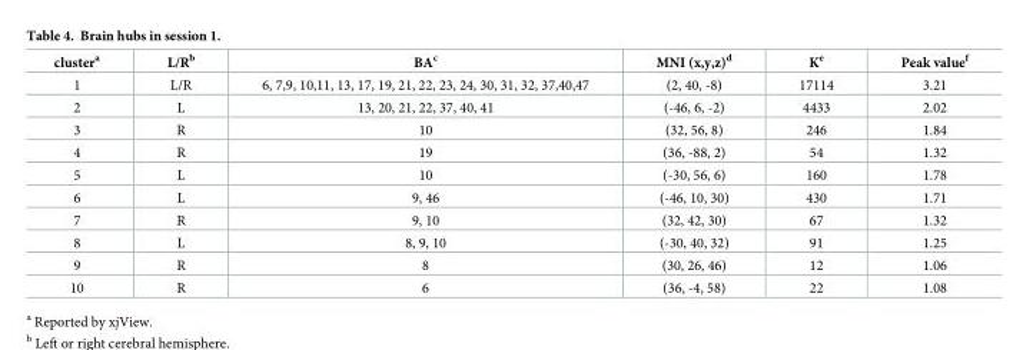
<table><thead><tr><td>cluster<sup>a</sup></td><td>L/R<sup>b</sup></td><td>BA<sup>c</sup></td><td>MNI (x,y,z)<sup>d</sup></td><td>K<sup>e</sup></td><td>Peak value<sup>f</sup></td></tr></thead><tbody><tr><td>1</td><td>L/R</td><td>6, 7,9, 10,11, 13, 17, 19, 21, 22, 23, 24, 30, 31, 32, 37,40,47</td><td>(2, 40, -8)</td><td>17114</td><td>3.21</td></tr><tr><td>2</td><td>L</td><td>13, 20, 21, 22, 37, 40, 41</td><td>(-46, 6, -2)</td><td>4433</td><td>2.02</td></tr><tr><td>3</td><td>R</td><td>10</td><td>(32, 56, 8)</td><td>246</td><td>1.84</td></tr><tr><td>4</td><td>R</td><td>19</td><td>(36, -88, 2)</td><td>54</td><td>1.32</td></tr><tr><td>5</td><td>L</td><td>10</td><td>(-30, 56, 6)</td><td>160</td><td>1.78</td></tr><tr><td>6</td><td>L</td><td>9, 46</td><td>(-46, 10, 30)</td><td>430</td><td>1.71</td></tr><tr><td>7</td><td>R</td><td>9, 10</td><td>(32, 42, 30)</td><td>67</td><td>1.32</td></tr><tr><td>8</td><td>L</td><td>8, 9, 10</td><td>(-30, 40, 32)</td><td>91</td><td>1.25</td></tr><tr><td>9</td><td>R</td><td>8</td><td>(30, 26, 46)</td><td>12</td><td>1.06</td></tr><tr><td>10</td><td>R</td><td>6</td><td>(36, -4, 58)</td><td>22</td><td>1.08</td></tr></tbody></table>